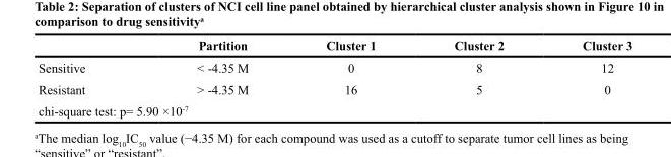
<table><thead><tr><td></td><td>Partition</td><td>Cluster 1</td><td>Cluster 2</td><td>Cluster 3</td></tr></thead><tbody><tr><td>Sensitive</td><td>&lt; -4.35 M</td><td>0</td><td>8</td><td>12</td></tr><tr><td>Resistant</td><td>&gt; -4.35 M</td><td>16</td><td>5</td><td>0</td></tr><tr><td colspan="5">chi-square test: p= 5.90 ×10<sup>-7</sup></td></tr></tbody></table>